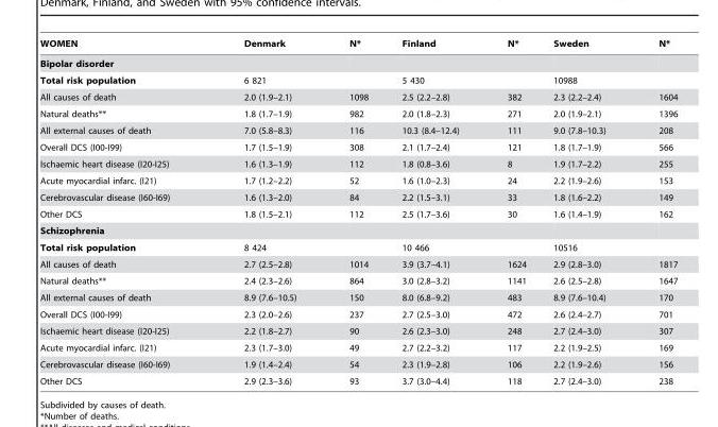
<table><thead><tr><td>WOMEN</td><td>Denmark</td><td>N*</td><td>Finland</td><td>N*</td><td>Sweden</td><td>N*</td></tr></thead><tbody><tr><td colspan="7">Bipolar disorder</td></tr><tr><td>Total risk population</td><td>6 821</td><td></td><td>5 430</td><td></td><td>10988</td><td></td></tr><tr><td>All causes of death</td><td>2.0 (1.9–2.1)</td><td>1098</td><td>2.5 (2.2–2.8)</td><td>382</td><td>2.3 (2.2–2.4)</td><td>1604</td></tr><tr><td>Natural deaths**</td><td>1.8 (1.7–1.9)</td><td>982</td><td>2.0 (1.8–2.3)</td><td>271</td><td>2.0 (1.9–2.1)</td><td>1396</td></tr><tr><td>All external causes of death</td><td>7.0 (5.8–8.3)</td><td>116</td><td>10.3 (8.4–12.4)</td><td>111</td><td>9.0 (7.8–10.3)</td><td>208</td></tr><tr><td>Overall DCS (I00-I99)</td><td>1.7 (1.5–1.9)</td><td>308</td><td>2.1 (1.7–2.4)</td><td>121</td><td>1.8 (1.7–1.9)</td><td>566</td></tr><tr><td>Ischaemic heart disease (I20-I25)</td><td>1.6 (1.3–1.9)</td><td>112</td><td>1.8 (0.8–3.6)</td><td>8</td><td>1.9 (1.7–2.2)</td><td>255</td></tr><tr><td>Acute myocardial infarc. (I21)</td><td>1.7 (1.2–2.2)</td><td>52</td><td>1.6 (1.0–2.3)</td><td>24</td><td>2.2 (1.9–2.6)</td><td>153</td></tr><tr><td>Cerebrovascular disease (I60-I69)</td><td>1.6 (1.3–2.0)</td><td>84</td><td>2.2 (1.5–3.1)</td><td>33</td><td>1.8 (1.6–2.2)</td><td>149</td></tr><tr><td>Other DCS</td><td>1.8 (1.5–2.1)</td><td>112</td><td>2.5 (1.7–3.6)</td><td>30</td><td>1.6 (1.4–1.9)</td><td>162</td></tr><tr><td colspan="7">Schizophrenia</td></tr><tr><td>Total risk population</td><td>8 424</td><td></td><td>10 466</td><td></td><td>10516</td><td></td></tr><tr><td>All causes of death</td><td>2.7 (2.5–2.8)</td><td>1014</td><td>3.9 (3.7–4.1)</td><td>1624</td><td>2.9 (2.8–3.0)</td><td>1817</td></tr><tr><td>Natural deaths**</td><td>2.4 (2.3–2.6)</td><td>864</td><td>3.0 (2.8–3.2)</td><td>1141</td><td>2.6 (2.5–2.8)</td><td>1647</td></tr><tr><td>All external causes of death</td><td>8.9 (7.6–10.5)</td><td>150</td><td>8.0 (6.8–9.2)</td><td>483</td><td>8.9 (7.6–10.4)</td><td>170</td></tr><tr><td>Overall DCS (I00-I99)</td><td>2.3 (2.0–2.6)</td><td>237</td><td>2.7 (2.5–3.0)</td><td>472</td><td>2.6 (2.4–2.7)</td><td>701</td></tr><tr><td>Ischaemic heart disease (I20-I25)</td><td>2.2 (1.8–2.7)</td><td>90</td><td>2.6 (2.3–3.0)</td><td>248</td><td>2.7 (2.4–3.0)</td><td>307</td></tr><tr><td>Acute myocardial infarc. (I21)</td><td>2.3 (1.7–3.0)</td><td>49</td><td>2.7 (2.2–3.2)</td><td>117</td><td>2.2 (1.9–2.5)</td><td>169</td></tr><tr><td>Cerebrovascular disease (I60-I69)</td><td>1.9 (1.4–2.4)</td><td>54</td><td>2.3 (1.9–2.8)</td><td>106</td><td>2.2 (1.9–2.6)</td><td>156</td></tr><tr><td>Other DCS</td><td>2.9 (2.3–3.6)</td><td>93</td><td>3.7 (3.0–4.4)</td><td>118</td><td>2.7 (2.4–3.0)</td><td>238</td></tr></tbody></table>